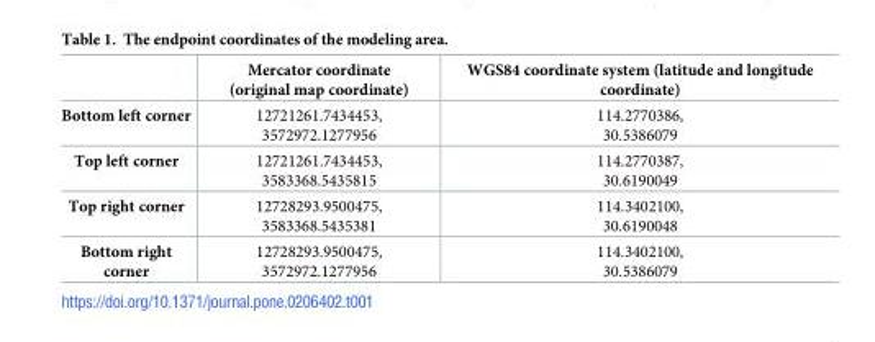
<table><thead><tr><td></td><td>Mercator coordinate (original map coordinate)</td><td>WGS84 coordinate system (latitude and longitude coordinate)</td></tr></thead><tbody><tr><td>Bottom left corner</td><td>12721261.7434453, 3572972.1277956</td><td>114.2770386, 30.5386079</td></tr><tr><td>Top left corner</td><td>12721261.7434453, 3583368.5435815</td><td>114.2770387, 30.6190049</td></tr><tr><td>Top right corner</td><td>12728293.9500475, 3583368.5435381</td><td>114.3402100, 30.6190048</td></tr><tr><td>Bottom right corner</td><td>12728293.9500475, 3572972.1277956</td><td>114.3402100, 30.5386079</td></tr></tbody></table>